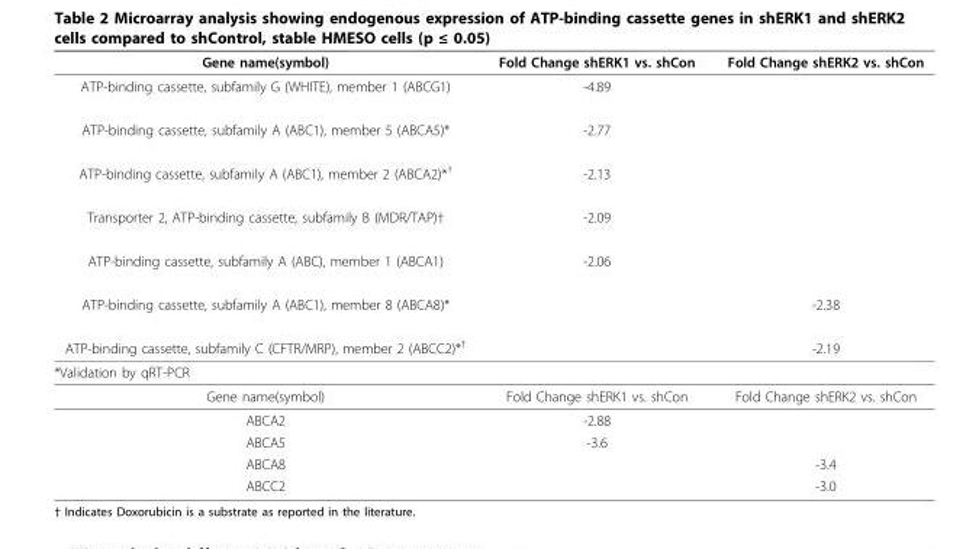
<table><thead><tr><td>Gene name(symbol)</td><td>Fold Change shERK1 vs. shCon</td><td>Fold Change shERK2 vs. shCon</td></tr></thead><tbody><tr><td>ATP-binding cassette, subfamily G (WHITE), member 1 (ABCG1)</td><td>-4.89</td><td></td></tr><tr><td>ATP-binding cassette, subfamily A (ABC1), member 5 (ABCA5)*</td><td>-2.77</td><td></td></tr><tr><td>ATP-binding cassette, subfamily A (ABC1), member 2 (ABCA2)*<sup>†</sup></td><td>-2.13</td><td></td></tr><tr><td>Transporter 2, ATP-binding cassette, subfamily B (MDR/TAP)†</td><td>-2.09</td><td></td></tr><tr><td>ATP-binding cassette, subfamily A (ABC), member 1 (ABCA1)</td><td>-2.06</td><td></td></tr><tr><td>ATP-binding cassette, subfamily A (ABC1), member 8 (ABCA8)*</td><td></td><td>-2.38</td></tr><tr><td>ATP-binding cassette, subfamily C (CFTR/MRP), member 2 (ABCC2)*<sup>†</sup></td><td></td><td>-2.19</td></tr><tr><td colspan="3">*Validation by qRT-PCR</td></tr><tr><td>Gene name(symbol)</td><td>Fold Change shERK1 vs. shCon</td><td>Fold Change shERK2 vs. shCon</td></tr><tr><td>ABCA2</td><td>-2.88</td><td></td></tr><tr><td>ABCA5</td><td>-3.6</td><td></td></tr><tr><td>ABCA8</td><td></td><td>-3.4</td></tr><tr><td>ABCC2</td><td></td><td>-3.0</td></tr></tbody></table>